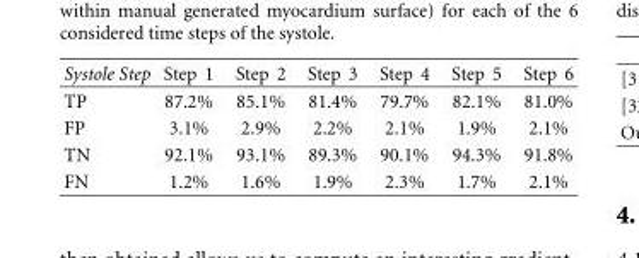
<table><thead><tr><td>Systole Step</td><td>Step 1</td><td>Step 2</td><td>Step 3</td><td>Step 4</td><td>Step 5</td><td>Step 6</td></tr></thead><tbody><tr><td>TP</td><td>87.2%</td><td>85.1%</td><td>81.4%</td><td>79.7%</td><td>82.1%</td><td>81.0%</td></tr><tr><td>FP</td><td>3.1%</td><td>2.9%</td><td>2.2%</td><td>2.1%</td><td>1.9%</td><td>2.1%</td></tr><tr><td>TN</td><td>92.1%</td><td>93.1%</td><td>89.3%</td><td>90.1%</td><td>94.3%</td><td>91.8%</td></tr><tr><td>FN</td><td>1.2%</td><td>1.6%</td><td>1.9%</td><td>2.3%</td><td>1.7%</td><td>2.1%</td></tr></tbody></table>